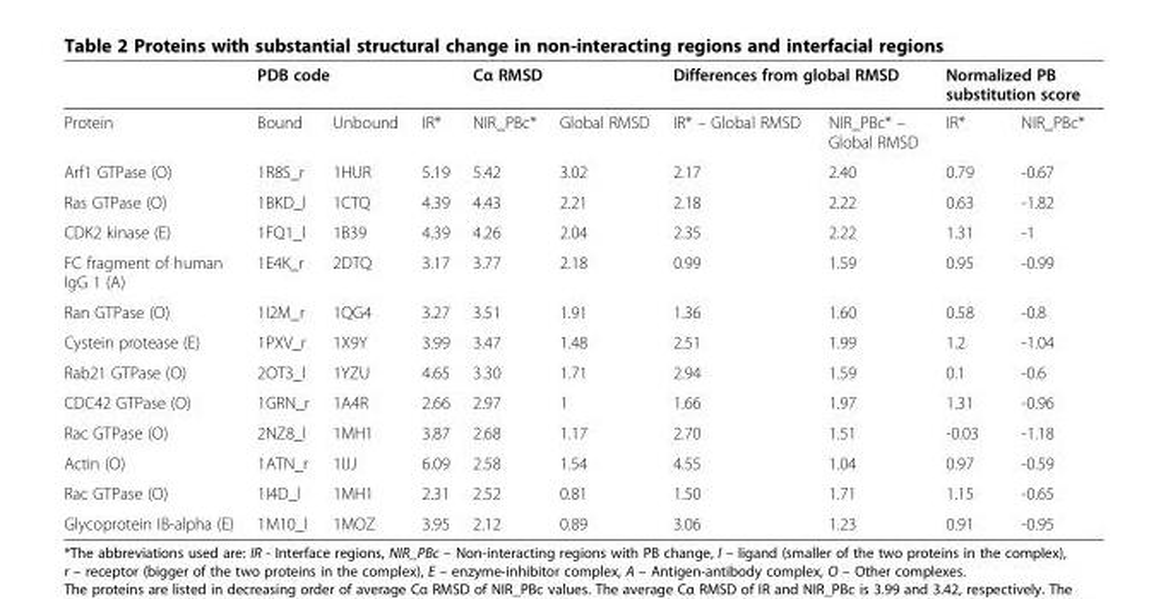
<table><thead><tr><td rowspan="2">Protein</td><td colspan="2">PDB code</td><td rowspan="2">IR*</td><td colspan="2">Cα RMSD</td><td colspan="2">Differences from global RMSD</td><td colspan="2">Normalized PB substitution score</td></tr><tr><td>Bound</td><td>Unbound</td><td>NIR_PBc*</td><td>Global RMSD</td><td>IR* – Global RMSD</td><td>NIR_PBc* – Global RMSD</td><td>IR*</td><td>NIR_PBc*</td></tr></thead><tbody><tr><td>Arf1 GTPase (O)</td><td>1R8S_r</td><td>1HUR</td><td>5.19</td><td>5.42</td><td>3.02</td><td>2.17</td><td>2.40</td><td>0.79</td><td>-0.67</td></tr><tr><td>Ras GTPase (O)</td><td>1BKD_l</td><td>1CTQ</td><td>4.39</td><td>4.43</td><td>2.21</td><td>2.18</td><td>2.22</td><td>0.63</td><td>-1.82</td></tr><tr><td>CDK2 kinase (E)</td><td>1FQ1_l</td><td>1B39</td><td>4.39</td><td>4.26</td><td>2.04</td><td>2.35</td><td>2.22</td><td>1.31</td><td>-1</td></tr><tr><td>FC fragment of human IgG 1 (A)</td><td>1E4K_r</td><td>2DTQ</td><td>3.17</td><td>3.77</td><td>2.18</td><td>0.99</td><td>1.59</td><td>0.95</td><td>-0.99</td></tr><tr><td>Ran GTPase (O)</td><td>1I2M_r</td><td>1QG4</td><td>3.27</td><td>3.51</td><td>1.91</td><td>1.36</td><td>1.60</td><td>0.58</td><td>-0.8</td></tr><tr><td>Cystein protease (E)</td><td>1PXV_r</td><td>1X9Y</td><td>3.99</td><td>3.47</td><td>1.48</td><td>2.51</td><td>1.99</td><td>1.2</td><td>-1.04</td></tr><tr><td>Rab21 GTPase (O)</td><td>2OT3_l</td><td>1YZU</td><td>4.65</td><td>3.30</td><td>1.71</td><td>2.94</td><td>1.59</td><td>0.1</td><td>-0.6</td></tr><tr><td>CDC42 GTPase (O)</td><td>1GRN_r</td><td>1A4R</td><td>2.66</td><td>2.97</td><td>1</td><td>1.66</td><td>1.97</td><td>1.31</td><td>-0.96</td></tr><tr><td>Rac GTPase (O)</td><td>2NZ8_l</td><td>1MH1</td><td>3.87</td><td>2.68</td><td>1.17</td><td>2.70</td><td>1.51</td><td>-0.03</td><td>-1.18</td></tr><tr><td>Actin (O)</td><td>1ATN_r</td><td>1IJJ</td><td>6.09</td><td>2.58</td><td>1.54</td><td>4.55</td><td>1.04</td><td>0.97</td><td>-0.59</td></tr><tr><td>Rac GTPase (O)</td><td>1I4D_l</td><td>1MH1</td><td>2.31</td><td>2.52</td><td>0.81</td><td>1.50</td><td>1.71</td><td>1.15</td><td>-0.65</td></tr><tr><td>Glycoprotein IB-alpha (E)</td><td>1M10_l</td><td>1MOZ</td><td>3.95</td><td>2.12</td><td>0.89</td><td>3.06</td><td>1.23</td><td>0.91</td><td>-0.95</td></tr></tbody></table>